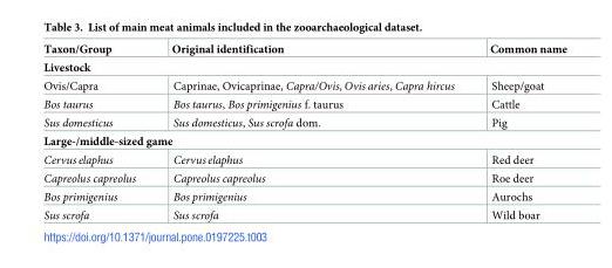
<table><thead><tr><td>Taxon/Group</td><td>Original identification</td><td>Common name</td></tr></thead><tbody><tr><td colspan="3">Livestock</td></tr><tr><td>Ovis/Capra</td><td>Caprinae, Ovicaprinae, Capra/Ovis, Ovis aries, Capra hircus</td><td>Sheep/goat</td></tr><tr><td>Bos taurus</td><td>Bos taurus, Bos primigenius f. taurus</td><td>Cattle</td></tr><tr><td>Sus domesticus</td><td>Sus domesticus, Sus scrofa dom.</td><td>Pig</td></tr><tr><td colspan="3">Large-/middle-sized game</td></tr><tr><td>Cervus elaphus</td><td>Cervus elaphus</td><td>Red deer</td></tr><tr><td>Capreolus capreolus</td><td>Capreolus capreolus</td><td>Roe deer</td></tr><tr><td>Bos primigenius</td><td>Bos primigenius</td><td>Aurochs</td></tr><tr><td>Sus scrofa</td><td>Sus scrofa</td><td>Wild boar</td></tr></tbody></table>